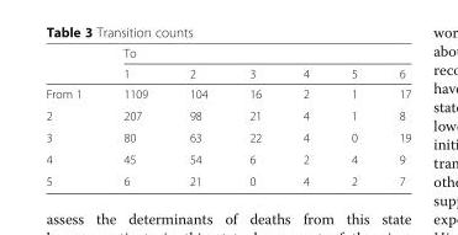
<table><thead><tr><td rowspan="2"></td><td colspan="6">To</td></tr><tr><td>1</td><td>2</td><td>3</td><td>4</td><td>5</td><td>6</td></tr></thead><tbody><tr><td>From 1</td><td>1109</td><td>104</td><td>16</td><td>2</td><td>1</td><td>17</td></tr><tr><td>2</td><td>207</td><td>98</td><td>21</td><td>4</td><td>1</td><td>8</td></tr><tr><td>3</td><td>80</td><td>63</td><td>22</td><td>4</td><td>0</td><td>19</td></tr><tr><td>4</td><td>45</td><td>54</td><td>6</td><td>2</td><td>4</td><td>9</td></tr><tr><td>5</td><td>6</td><td>21</td><td>0</td><td>4</td><td>2</td><td>7</td></tr></tbody></table>